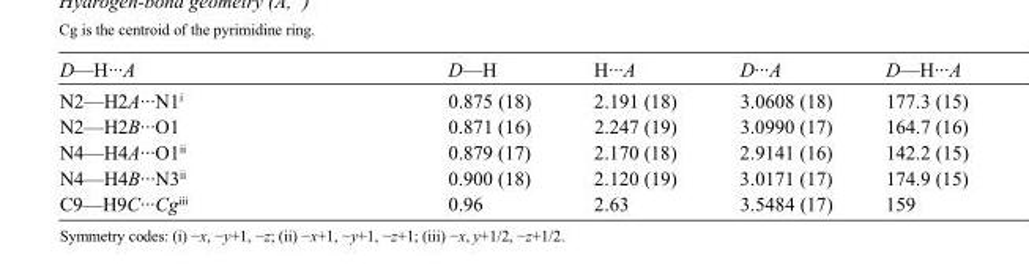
<table><tbody><tr><td>D—H···A</td><td>D—H</td><td>H···A</td><td>D···A</td><td>D—H···A</td></tr><tr><td>N2—H2A···N1<sup>i</sup></td><td>0.875 (18)</td><td>2.191 (18)</td><td>3.0608 (18)</td><td>177.3 (15)</td></tr><tr><td>N2—H2B···O1</td><td>0.871 (16)</td><td>2.247 (19)</td><td>3.0990 (17)</td><td>164.7 (16)</td></tr><tr><td>N4—H4A···O1<sup>ii</sup></td><td>0.879 (17)</td><td>2.170 (18)</td><td>2.9141 (16)</td><td>142.2 (15)</td></tr><tr><td>N4—H4B···N3<sup>ii</sup></td><td>0.900 (18)</td><td>2.120 (19)</td><td>3.0171 (17)</td><td>174.9 (15)</td></tr><tr><td>C9—H9C···Cg<sup>iii</sup></td><td>0.96</td><td>2.63</td><td>3.5484 (17)</td><td>159</td></tr></tbody></table>